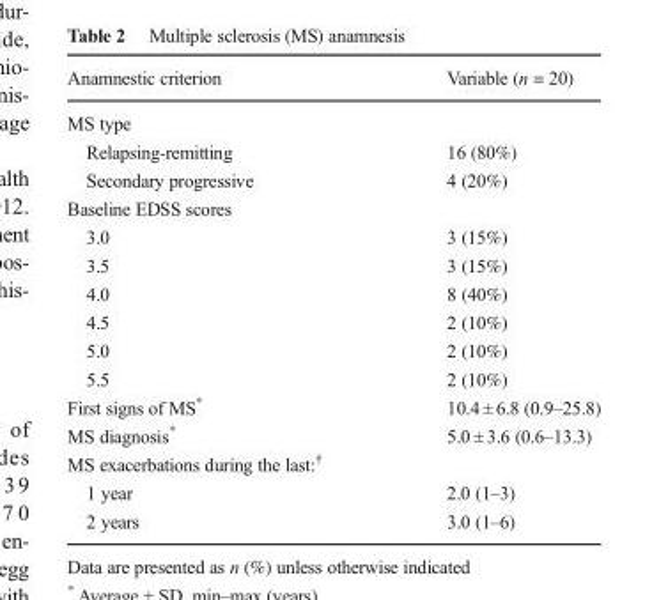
<table><thead><tr><td>Anamnestic criterion</td><td>Variable (n = 20)</td></tr></thead><tbody><tr><td colspan="2">MS type</td></tr><tr><td>Relapsing-remitting</td><td>16 (80%)</td></tr><tr><td>Secondary progressive</td><td>4 (20%)</td></tr><tr><td colspan="2">Baseline EDSS scores</td></tr><tr><td>3.0</td><td>3 (15%)</td></tr><tr><td>3.5</td><td>3 (15%)</td></tr><tr><td>4.0</td><td>8 (40%)</td></tr><tr><td>4.5</td><td>2 (10%)</td></tr><tr><td>5.0</td><td>2 (10%)</td></tr><tr><td>5.5</td><td>2 (10%)</td></tr><tr><td>First signs of MS*</td><td>10.4 ± 6.8 (0.9–25.8)</td></tr><tr><td>MS diagnosis*</td><td>5.0 ± 3.6 (0.6–13.3)</td></tr><tr><td colspan="2">MS exacerbations during the last:<sup>†</sup></td></tr><tr><td>1 year</td><td>2.0 (1–3)</td></tr><tr><td>2 years</td><td>3.0 (1–6)</td></tr></tbody></table>